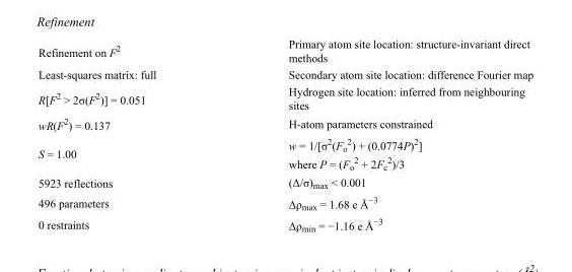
<table><tbody><tr><td>Refinement on F<sup>2</sup></td><td>Primary atom site location: structure-invariant direct methods</td></tr><tr><td>Least-squares matrix: full</td><td>Secondary atom site location: difference Fourier map</td></tr><tr><td>R[F<sup>2</sup> &gt; 2σ(F<sup>2</sup>)] = 0.051</td><td>Hydrogen site location: inferred from neighbouring sites</td></tr><tr><td>wR(F<sup>2</sup>) = 0.137</td><td>H-atom parameters constrained</td></tr><tr><td>S = 1.00</td><td>w = 1/[σ<sup>2</sup>(F<sub>o</sub> <sup>2</sup>) + (0.0774P)<sup>2</sup>] where P = (F<sub>o</sub> <sup>2</sup> + 2F<sub>c</sub> <sup>2</sup>)/3</td></tr><tr><td>5923 reflections</td><td>(Δ/σ)<sub>max</sub> &lt; 0.001</td></tr><tr><td>496 parameters</td><td>Δρ<sub>max</sub> = 1.68 e Å<sup>−3</sup></td></tr><tr><td>0 restraints</td><td>Δρ<sub>min</sub> = −1.16 e Å<sup>−3</sup></td></tr></tbody></table>